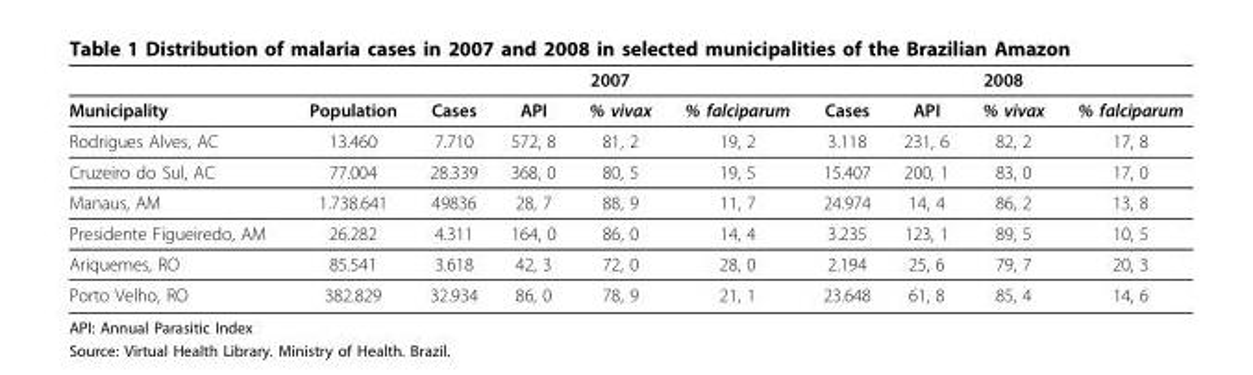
<table><thead><tr><td rowspan="2">Municipality</td><td rowspan="2">Population</td><td colspan="4">2007</td><td colspan="4">2008</td></tr><tr><td>Cases</td><td>API</td><td>% vivax</td><td>% falciparum</td><td>Cases</td><td>API</td><td>% vivax</td><td>% falciparum</td></tr></thead><tbody><tr><td>Rodrigues Alves, AC</td><td>13.460</td><td>7.710</td><td>572, 8</td><td>81, 2</td><td>19, 2</td><td>3.118</td><td>231, 6</td><td>82, 2</td><td>17, 8</td></tr><tr><td>Cruzeiro do Sul, AC</td><td>77.004</td><td>28.339</td><td>368, 0</td><td>80, 5</td><td>19, 5</td><td>15.407</td><td>200, 1</td><td>83, 0</td><td>17, 0</td></tr><tr><td>Manaus, AM</td><td>1.738.641</td><td>49836</td><td>28, 7</td><td>88, 9</td><td>11, 7</td><td>24.974</td><td>14, 4</td><td>86, 2</td><td>13, 8</td></tr><tr><td>Presidente Figueiredo, AM</td><td>26.282</td><td>4.311</td><td>164, 0</td><td>86, 0</td><td>14, 4</td><td>3.235</td><td>123, 1</td><td>89, 5</td><td>10, 5</td></tr><tr><td>Ariquemes, RO</td><td>85.541</td><td>3.618</td><td>42, 3</td><td>72, 0</td><td>28, 0</td><td>2.194</td><td>25, 6</td><td>79, 7</td><td>20, 3</td></tr><tr><td>Porto Velho, RO</td><td>382.829</td><td>32.934</td><td>86, 0</td><td>78, 9</td><td>21, 1</td><td>23.648</td><td>61, 8</td><td>85, 4</td><td>14, 6</td></tr></tbody></table>